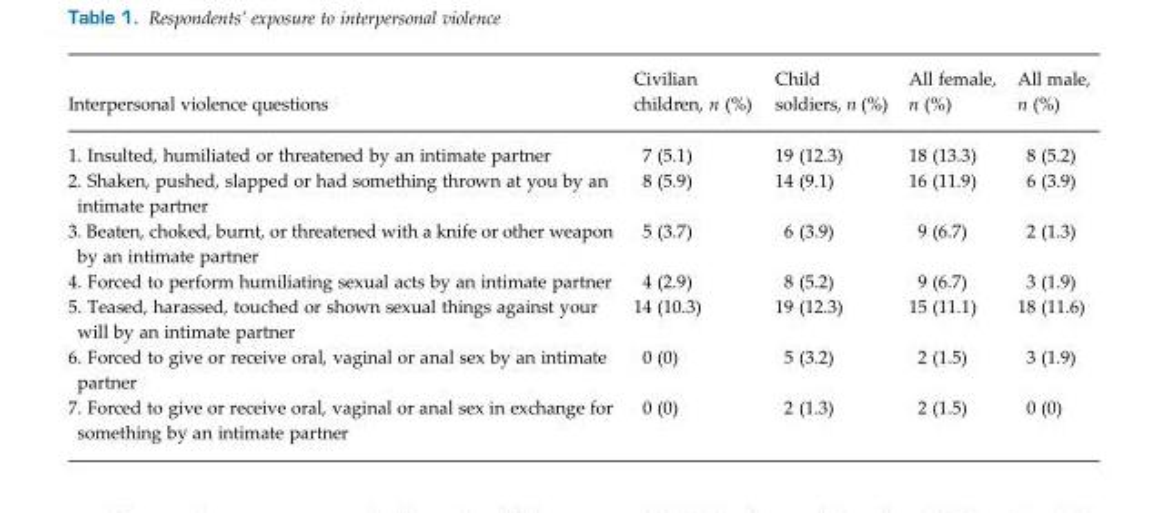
<table><thead><tr><td>Interpersonal violence questions</td><td>Civilian children, n (%)</td><td>Child soldiers, n (%)</td><td>All female, n (%)</td><td>All male, n (%)</td></tr></thead><tbody><tr><td>1. Insulted, humiliated or threatened by an intimate partner</td><td>7 (5.1)</td><td>19 (12.3)</td><td>18 (13.3)</td><td>8 (5.2)</td></tr><tr><td>2. Shaken, pushed, slapped or had something thrown at you by an intimate partner</td><td>8 (5.9)</td><td>14 (9.1)</td><td>16 (11.9)</td><td>6 (3.9)</td></tr><tr><td>3. Beaten, choked, burnt, or threatened with a knife or other weapon by an intimate partner</td><td>5 (3.7)</td><td>6 (3.9)</td><td>9 (6.7)</td><td>2 (1.3)</td></tr><tr><td>4. Forced to perform humiliating sexual acts by an intimate partner</td><td>4 (2.9)</td><td>8 (5.2)</td><td>9 (6.7)</td><td>3 (1.9)</td></tr><tr><td>5. Teased, harassed, touched or shown sexual things against your will by an intimate partner</td><td>14 (10.3)</td><td>19 (12.3)</td><td>15 (11.1)</td><td>18 (11.6)</td></tr><tr><td>6. Forced to give or receive oral, vaginal or anal sex by an intimate partner</td><td>0 (0)</td><td>5 (3.2)</td><td>2 (1.5)</td><td>3 (1.9)</td></tr><tr><td>7. Forced to give or receive oral, vaginal or anal sex in exchange for something by an intimate partner</td><td>0 (0)</td><td>2 (1.3)</td><td>2 (1.5)</td><td>0 (0)</td></tr></tbody></table>